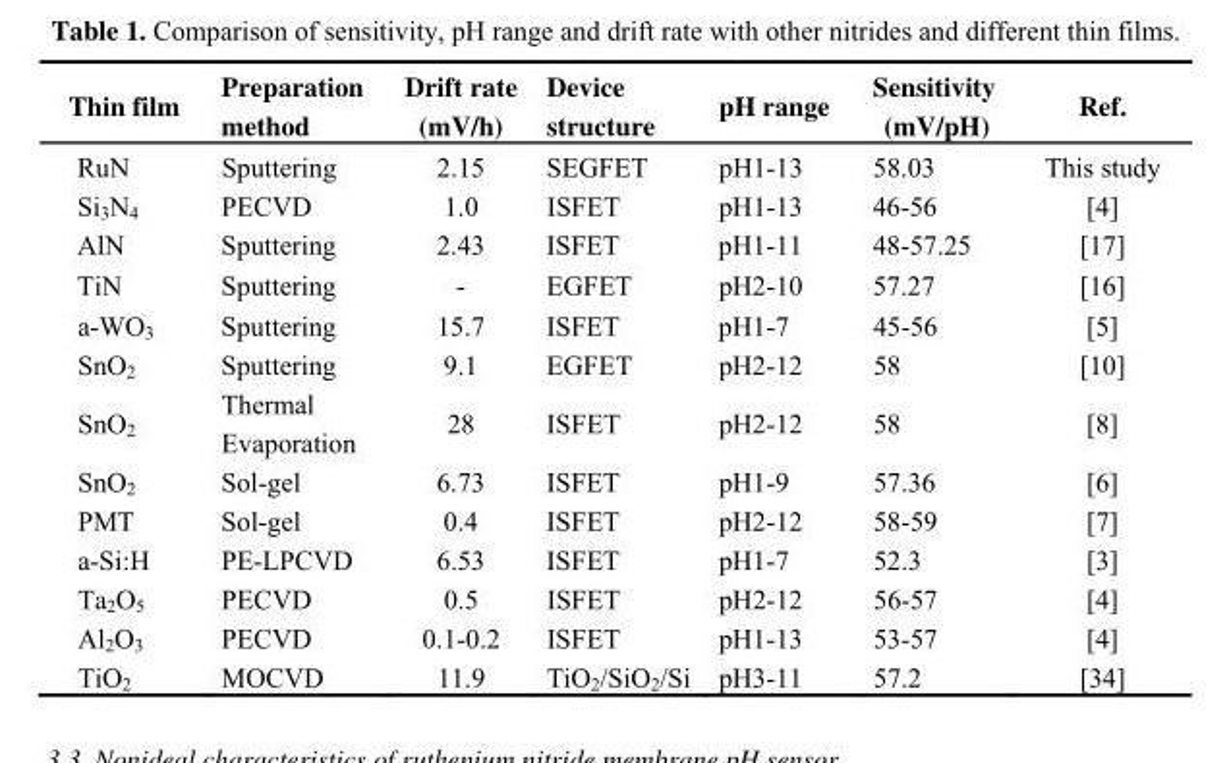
<table><thead><tr><td>Thin film</td><td>Preparation method</td><td>Drift rate (mV/h)</td><td>Device structure</td><td>pH range</td><td>Sensitivity (mV/pH)</td><td>Ref.</td></tr></thead><tbody><tr><td>RuN</td><td>Sputtering</td><td>2.15</td><td>SEGFET</td><td>pH1-13</td><td>58.03</td><td>This study</td></tr><tr><td>Si<sub>3</sub>N<sub>4</sub></td><td>PECVD</td><td>1.0</td><td>ISFET</td><td>pH1-13</td><td>46-56</td><td>[4]</td></tr><tr><td>AlN</td><td>Sputtering</td><td>2.43</td><td>ISFET</td><td>pH1-11</td><td>48-57.25</td><td>[17]</td></tr><tr><td>TiN</td><td>Sputtering</td><td>-</td><td>EGFET</td><td>pH2-10</td><td>57.27</td><td>[16]</td></tr><tr><td>a-WO<sub>3</sub></td><td>Sputtering</td><td>15.7</td><td>ISFET</td><td>pH1-7</td><td>45-56</td><td>[5]</td></tr><tr><td>SnO<sub>2</sub></td><td>Sputtering</td><td>9.1</td><td>EGFET</td><td>pH2-12</td><td>58</td><td>[10]</td></tr><tr><td>SnO<sub>2</sub></td><td>Thermal Evaporation</td><td>28</td><td>ISFET</td><td>pH2-12</td><td>58</td><td>[8]</td></tr><tr><td>SnO<sub>2</sub></td><td>Sol-gel</td><td>6.73</td><td>ISFET</td><td>pH1-9</td><td>57.36</td><td>[6]</td></tr><tr><td>PMT</td><td>Sol-gel</td><td>0.4</td><td>ISFET</td><td>pH2-12</td><td>58-59</td><td>[7]</td></tr><tr><td>a-Si:H</td><td>PE-LPCVD</td><td>6.53</td><td>ISFET</td><td>pH1-7</td><td>52.3</td><td>[3]</td></tr><tr><td>Ta<sub>2</sub>O<sub>5</sub></td><td>PECVD</td><td>0.5</td><td>ISFET</td><td>pH2-12</td><td>56-57</td><td>[4]</td></tr><tr><td>Al<sub>2</sub>O<sub>3</sub></td><td>PECVD</td><td>0.1-0.2</td><td>ISFET</td><td>pH1-13</td><td>53-57</td><td>[4]</td></tr><tr><td>TiO<sub>2</sub></td><td>MOCVD</td><td>11.9</td><td>TiO<sub>2</sub>/SiO<sub>2</sub>/Si</td><td>pH3-11</td><td>57.2</td><td>[34]</td></tr></tbody></table>